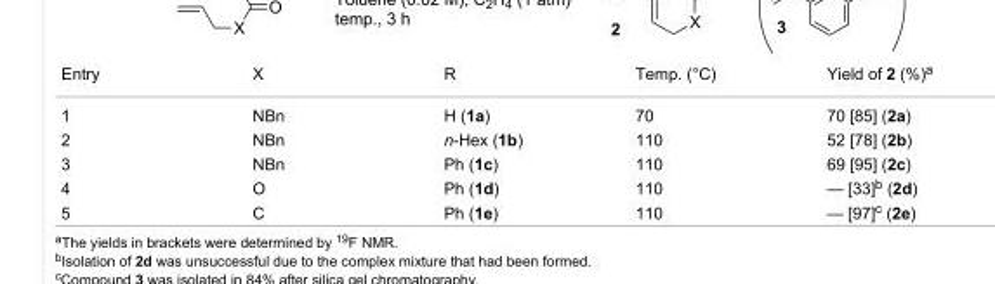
<table><tbody><tr><td>Entry</td><td>X</td><td>R</td><td>Temp. (°C)</td><td>Yield of 2 (%)<sup>a</sup></td></tr><tr><td>1</td><td>NBn</td><td>H (1a)</td><td>70</td><td>70 [85] (2a)</td></tr><tr><td>2</td><td>NBn</td><td>n-Hex (1b)</td><td>110</td><td>52 [78] (2b)</td></tr><tr><td>3</td><td>NBn</td><td>Ph (1c)</td><td>110</td><td>69 [95] (2c)</td></tr><tr><td>4</td><td>O</td><td>Ph (1d)</td><td>110</td><td>— [33]<sup>b</sup> (2d)</td></tr><tr><td>5</td><td>C</td><td>Ph (1e)</td><td>110</td><td>— [97]<sup>c</sup> (2e)</td></tr></tbody></table>